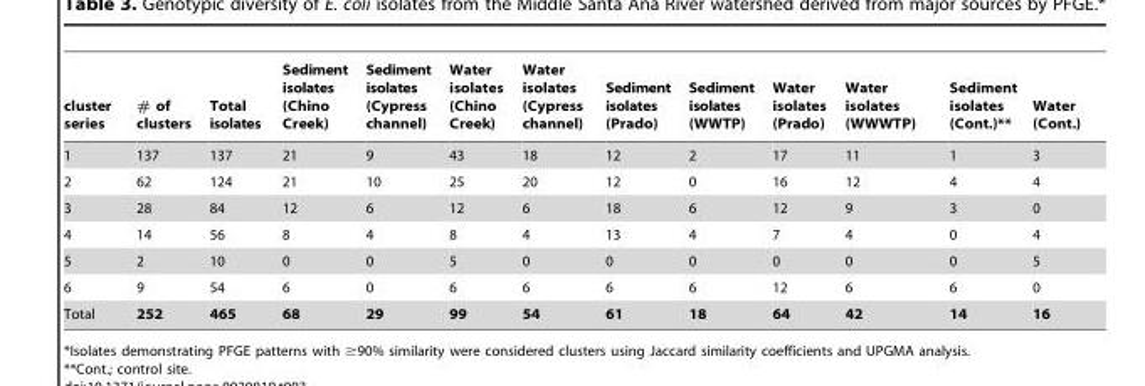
<table><thead><tr><td>cluster series</td><td># of clusters</td><td>Total isolates</td><td>Sediment isolates (Chino Creek)</td><td>Sediment isolates (Cypress channel)</td><td>Water isolates (Chino Creek)</td><td>Water isolates (Cypress channel)</td><td>Sediment isolates (Prado)</td><td>Sediment isolates (WWTP)</td><td>Water isolates (Prado)</td><td>Water isolates (WWWTP)</td><td>Sediment isolates (Cont.)**</td><td>Water (Cont.)</td></tr></thead><tbody><tr><td>1</td><td>137</td><td>137</td><td>21</td><td>9</td><td>43</td><td>18</td><td>12</td><td>2</td><td>17</td><td>11</td><td>1</td><td>3</td></tr><tr><td>2</td><td>62</td><td>124</td><td>21</td><td>10</td><td>25</td><td>20</td><td>12</td><td>0</td><td>16</td><td>12</td><td>4</td><td>4</td></tr><tr><td>3</td><td>28</td><td>84</td><td>12</td><td>6</td><td>12</td><td>6</td><td>18</td><td>6</td><td>12</td><td>9</td><td>3</td><td>0</td></tr><tr><td>4</td><td>14</td><td>56</td><td>8</td><td>4</td><td>8</td><td>4</td><td>13</td><td>4</td><td>7</td><td>4</td><td>0</td><td>4</td></tr><tr><td>5</td><td>2</td><td>10</td><td>0</td><td>0</td><td>5</td><td>0</td><td>0</td><td>0</td><td>0</td><td>0</td><td>0</td><td>5</td></tr><tr><td>6</td><td>9</td><td>54</td><td>6</td><td>0</td><td>6</td><td>6</td><td>6</td><td>6</td><td>12</td><td>6</td><td>6</td><td>0</td></tr><tr><td>Total</td><td>252</td><td>465</td><td>68</td><td>29</td><td>99</td><td>54</td><td>61</td><td>18</td><td>64</td><td>42</td><td>14</td><td>16</td></tr></tbody></table>